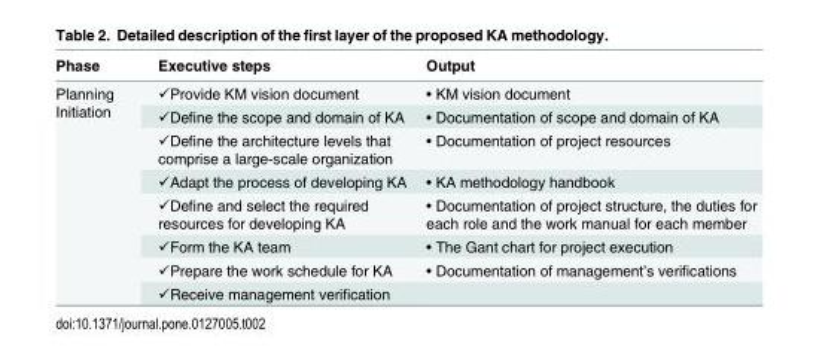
<table><thead><tr><td>Phase</td><td>Executive steps</td><td>Output</td></tr></thead><tbody><tr><td rowspan="8">Planning Initiation</td><td>✓Provide KM vision document</td><td>• KM vision document</td></tr><tr><td>✓Define the scope and domain of KA</td><td>• Documentation of scope and domain of KA</td></tr><tr><td>✓Define the architecture levels that comprise a large-scale organization</td><td>• Documentation of project resources</td></tr><tr><td>✓Adapt the process of developing KA</td><td>• KA methodology handbook</td></tr><tr><td>✓Define and select the required resources for developing KA</td><td>• Documentation of project structure, the duties for each role and the work manual for each member</td></tr><tr><td>✓Form the KA team</td><td>• The Gant chart for project execution</td></tr><tr><td>✓Prepare the work schedule for KA</td><td>• Documentation of management’s verifications</td></tr><tr><td>✓Receive management verification</td><td></td></tr></tbody></table>